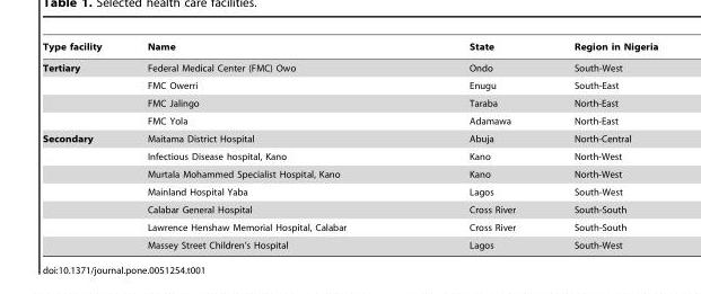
<table><thead><tr><td>Type facility</td><td>Name</td><td>State</td><td>Region in Nigeria</td></tr></thead><tbody><tr><td rowspan="4">Tertiary</td><td>Federal Medical Center (FMC) Owo</td><td>Ondo</td><td>South-West</td></tr><tr><td>FMC Owerri</td><td>Enugu</td><td>South-East</td></tr><tr><td>FMC Jalingo</td><td>Taraba</td><td>North-East</td></tr><tr><td>FMC Yola</td><td>Adamawa</td><td>North-East</td></tr><tr><td rowspan="7">Secondary</td><td>Maitama District Hospital</td><td>Abuja</td><td>North-Central</td></tr><tr><td>Infectious Disease hospital, Kano</td><td>Kano</td><td>North-West</td></tr><tr><td>Murtala Mohammed Specialist Hospital, Kano</td><td>Kano</td><td>North-West</td></tr><tr><td>Mainland Hospital Yaba</td><td>Lagos</td><td>South-West</td></tr><tr><td>Calabar General Hospital</td><td>Cross River</td><td>South-South</td></tr><tr><td>Lawrence Henshaw Memorial Hospital, Calabar</td><td>Cross River</td><td>South-South</td></tr><tr><td>Massey Street Children’s Hospital</td><td>Lagos</td><td>South-West</td></tr></tbody></table>